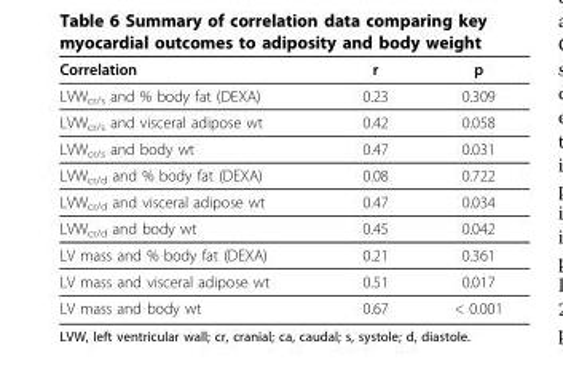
<table><thead><tr><td>Correlation</td><td>r</td><td>p</td></tr></thead><tbody><tr><td>LVW<sub>cr/s</sub> and % body fat (DEXA)</td><td>0.23</td><td>0.309</td></tr><tr><td>LVW<sub>cr/s</sub> and visceral adipose wt</td><td>0.42</td><td>0.058</td></tr><tr><td>LVW<sub>cr/s</sub> and body wt</td><td>0.47</td><td>0.031</td></tr><tr><td>LVW<sub>cr/d</sub> and % body fat (DEXA)</td><td>0.08</td><td>0.722</td></tr><tr><td>LVW<sub>cr/d</sub> and visceral adipose wt</td><td>0.47</td><td>0.034</td></tr><tr><td>LVW<sub>cr/d</sub> and body wt</td><td>0.45</td><td>0.042</td></tr><tr><td>LV mass and % body fat (DEXA)</td><td>0.21</td><td>0.361</td></tr><tr><td>LV mass and visceral adipose wt</td><td>0.51</td><td>0.017</td></tr><tr><td>LV mass and body wt</td><td>0.67</td><td>&lt; 0.001</td></tr></tbody></table>